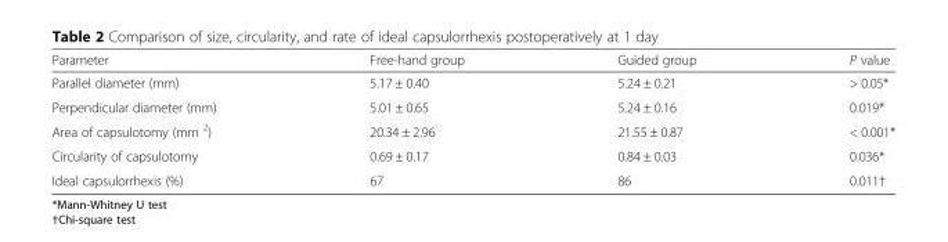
<table><thead><tr><td>Parameter</td><td>Free-hand group</td><td>Guided group</td><td>P value</td></tr></thead><tbody><tr><td>Parallel diameter (mm)</td><td>5.17 ± 0.40</td><td>5.24 ± 0.21</td><td>&gt; 0.05*</td></tr><tr><td>Perpendicular diameter (mm)</td><td>5.01 ± 0.65</td><td>5.24 ± 0.16</td><td>0.019*</td></tr><tr><td>Area of capsulotomy (mm <sup>2</sup>)</td><td>20.34 ± 2.96</td><td>21.55 ± 0.87</td><td>&lt; 0.001*</td></tr><tr><td>Circularity of capsulotomy</td><td>0.69 ± 0.17</td><td>0.84 ± 0.03</td><td>0.036*</td></tr><tr><td>Ideal capsulorrhexis (%)</td><td>67</td><td>86</td><td>0.011†</td></tr></tbody></table>